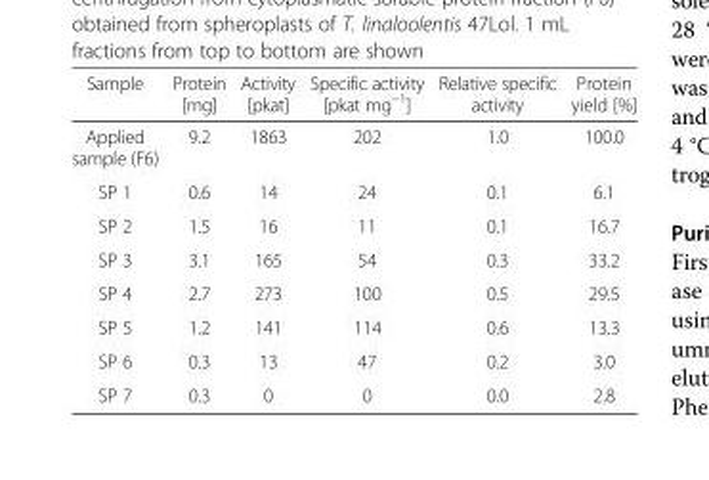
<table><thead><tr><td>Sample</td><td>Protein [mg]</td><td>Activity [pkat]</td><td>Specific activity [pkat mg<sup>−1</sup>]</td><td>Relative specific activity</td><td>Protein yield [%]</td></tr></thead><tbody><tr><td>Applied sample (F6)</td><td>9.2</td><td>1863</td><td>202</td><td>1.0</td><td>100.0</td></tr><tr><td>SP 1</td><td>0.6</td><td>14</td><td>24</td><td>0.1</td><td>6.1</td></tr><tr><td>SP 2</td><td>1.5</td><td>16</td><td>11</td><td>0.1</td><td>16.7</td></tr><tr><td>SP 3</td><td>3.1</td><td>165</td><td>54</td><td>0.3</td><td>33.2</td></tr><tr><td>SP 4</td><td>2.7</td><td>273</td><td>100</td><td>0.5</td><td>29.5</td></tr><tr><td>SP 5</td><td>1.2</td><td>141</td><td>114</td><td>0.6</td><td>13.3</td></tr><tr><td>SP 6</td><td>0.3</td><td>13</td><td>47</td><td>0.2</td><td>3.0</td></tr><tr><td>SP 7</td><td>0.3</td><td>0</td><td>0</td><td>0.0</td><td>2.8</td></tr></tbody></table>